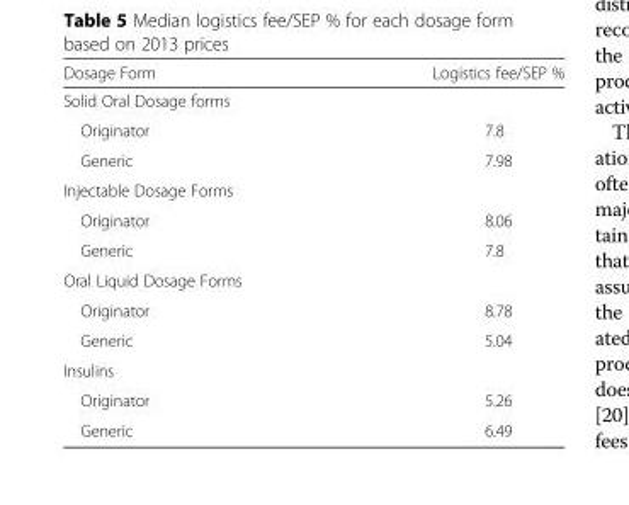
<table><thead><tr><td>Dosage Form</td><td>Logistics fee/SEP %</td></tr></thead><tbody><tr><td colspan="2">Solid Oral Dosage forms</td></tr><tr><td>Originator</td><td>7.8</td></tr><tr><td>Generic</td><td>7.98</td></tr><tr><td colspan="2">Injectable Dosage Forms</td></tr><tr><td>Originator</td><td>8.06</td></tr><tr><td>Generic</td><td>7.8</td></tr><tr><td colspan="2">Oral Liquid Dosage Forms</td></tr><tr><td>Originator</td><td>8.78</td></tr><tr><td>Generic</td><td>5.04</td></tr><tr><td colspan="2">Insulins</td></tr><tr><td>Originator</td><td>5.26</td></tr><tr><td>Generic</td><td>6.49</td></tr></tbody></table>